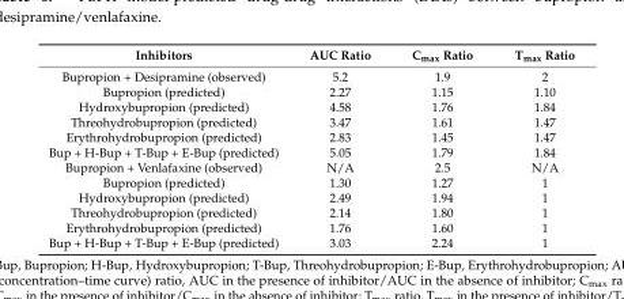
<table><thead><tr><td>Inhibitors</td><td>AUC Ratio</td><td>C<sub>max</sub> Ratio</td><td>T<sub>max</sub> Ratio</td></tr></thead><tbody><tr><td>Bupropion + Desipramine (observed)</td><td>5.2</td><td>1.9</td><td>2</td></tr><tr><td>Bupropion (predicted)</td><td>2.27</td><td>1.15</td><td>1.10</td></tr><tr><td>Hydroxybupropion (predicted)</td><td>4.58</td><td>1.76</td><td>1.84</td></tr><tr><td>Threohydrobupropion (predicted)</td><td>3.47</td><td>1.61</td><td>1.47</td></tr><tr><td>Erythrohydrobupropion (predicted)</td><td>2.83</td><td>1.45</td><td>1.47</td></tr><tr><td>Bup + H-Bup + T-Bup + E-Bup (predicted)</td><td>5.05</td><td>1.79</td><td>1.84</td></tr><tr><td>Bupropion + Venlafaxine (observed)</td><td>N/A</td><td>2.5</td><td>N/A</td></tr><tr><td>Bupropion (predicted)</td><td>1.30</td><td>1.27</td><td>1</td></tr><tr><td>Hydroxybupropion (predicted)</td><td>2.49</td><td>1.94</td><td>1</td></tr><tr><td>Threohydrobupropion (predicted)</td><td>2.14</td><td>1.80</td><td>1</td></tr><tr><td>Erythrohydrobupropion (predicted)</td><td>1.76</td><td>1.60</td><td>1</td></tr><tr><td>Bup + H-Bup + T-Bup + E-Bup (predicted)</td><td>3.03</td><td>2.24</td><td>1</td></tr></tbody></table>